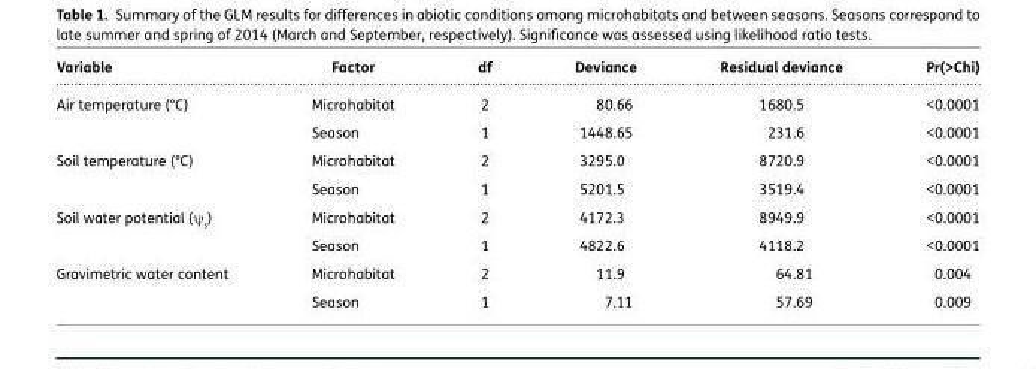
<table><thead><tr><td>Variable</td><td>Factor</td><td>df</td><td>Deviance</td><td>Residual deviance</td><td>Pr(&gt;Chi)</td></tr></thead><tbody><tr><td rowspan="2">Air temperature (°C)</td><td>Microhabitat</td><td>2</td><td>80.66</td><td>1680.5</td><td>&lt;0.0001</td></tr><tr><td>Season</td><td>1</td><td>1448.65</td><td>231.6</td><td>&lt;0.0001</td></tr><tr><td rowspan="2">Soil temperature (°C)</td><td>Microhabitat</td><td>2</td><td>3295.0</td><td>8720.9</td><td>&lt;0.0001</td></tr><tr><td>Season</td><td>1</td><td>5201.5</td><td>3519.4</td><td>&lt;0.0001</td></tr><tr><td rowspan="2">Soil water potential (ψ<sub>s</sub>)</td><td>Microhabitat</td><td>2</td><td>4172.3</td><td>8949.9</td><td>&lt;0.0001</td></tr><tr><td>Season</td><td>1</td><td>4822.6</td><td>4118.2</td><td>&lt;0.0001</td></tr><tr><td rowspan="2">Gravimetric water content</td><td>Microhabitat</td><td>2</td><td>11.9</td><td>64.81</td><td>0.004</td></tr><tr><td>Season</td><td>1</td><td>7.11</td><td>57.69</td><td>0.009</td></tr></tbody></table>